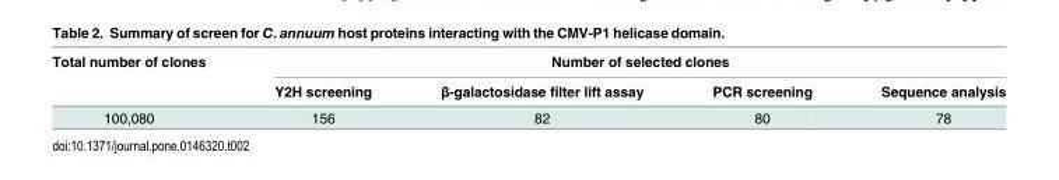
<table><thead><tr><td rowspan="2">Total number of clones</td><td colspan="4">Number of selected clones</td></tr><tr><td>Y2H screening</td><td>β-galactosidase filter lift assay</td><td>PCR screening</td><td>Sequence analysis</td></tr></thead><tbody><tr><td>100,080</td><td>156</td><td>82</td><td>80</td><td>78</td></tr></tbody></table>